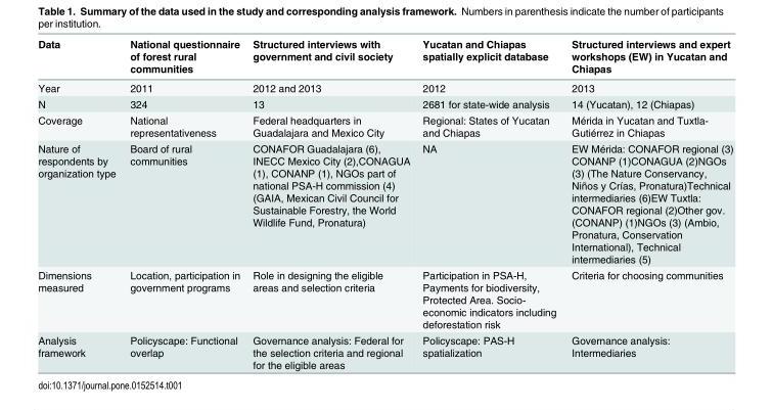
<table><thead><tr><td>Data</td><td>National questionnaire of forest rural communities</td><td>Structured interviews with government and civil society</td><td>Yucatan and Chiapas spatially explicit database</td><td>Structured interviews and expert workshops (EW) in Yucatan and Chiapas</td></tr></thead><tbody><tr><td>Year</td><td>2011</td><td>2012 and 2013</td><td>2012</td><td>2013</td></tr><tr><td>N</td><td>324</td><td>13</td><td>2681 for state-wide analysis</td><td>14 (Yucatan), 12 (Chiapas)</td></tr><tr><td>Coverage</td><td>National representativeness</td><td>Federal headquarters in Guadalajara and Mexico City</td><td>Regional: States of Yucatan and Chiapas</td><td>Mérida in Yucatan and Tuxtla- Gutiérrez in Chiapas</td></tr><tr><td>Nature of respondents by organization type</td><td>Board of rural communities</td><td>CONAFOR Guadalajara (6), INECC Mexico City (2),CONAGUA (1), CONANP (1), NGOs part of national PSA-H commission (4) (GAIA, Mexican Civil Council for Sustainable Forestry, the World Wildlife Fund, Pronatura)</td><td>NA</td><td>EW Mérida: CONAFOR regional (3) CONANP (1)CONAGUA (2)NGOs (3) (The Nature Conservancy, Niños y Crías, Pronatura)Technical intermediaries (6)EW Tuxtla: CONAFOR regional (2)Other gov. (CONANP) (1)NGOs (3) (Ambio, Pronatura, Conservation International), Technical intermediaries (5)</td></tr><tr><td>Dimensions measured</td><td>Location, participation in government programs</td><td>Role in designing the eligible areas and selection criteria</td><td>Participation in PSA-H, Payments for biodiversity, Protected Area. Socio- economic indicators including deforestation risk</td><td>Criteria for choosing communities</td></tr><tr><td>Analysis framework</td><td>Policyscape: Functional overlap</td><td>Governance analysis: Federal for the selection criteria and regional for the eligible areas</td><td>Policyscape: PAS-H spatialization</td><td>Governance analysis: Intermediaries</td></tr></tbody></table>